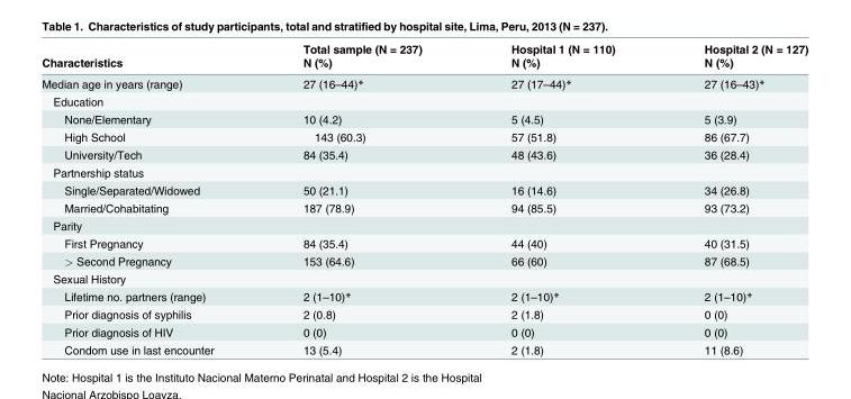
<table><thead><tr><td rowspan="2">Characteristics</td><td rowspan="2">Total sample (N = 237) N (%)</td><td rowspan="2">Hospital 1 (N = 110) N (%)</td><td rowspan="2">Hospital 2 (N = 127) N (%)</td></tr><tr></tr></thead><tbody><tr><td>Median age in years (range)</td><td>27 (16–44)*</td><td>27 (17–44)*</td><td>27 (16–43)*</td></tr><tr><td colspan="4">Education</td></tr><tr><td>None/Elementary</td><td>10 (4.2)</td><td>5 (4.5)</td><td>5 (3.9)</td></tr><tr><td>High School</td><td>143 (60.3)</td><td>57 (51.8)</td><td>86 (67.7)</td></tr><tr><td>University/Tech</td><td>84 (35.4)</td><td>48 (43.6)</td><td>36 (28.4)</td></tr><tr><td colspan="4">Partnership status</td></tr><tr><td>Single/Separated/Widowed</td><td>50 (21.1)</td><td>16 (14.6)</td><td>34 (26.8)</td></tr><tr><td>Married/Cohabitating</td><td>187 (78.9)</td><td>94 (85.5)</td><td>93 (73.2)</td></tr><tr><td colspan="4">Parity</td></tr><tr><td>First Pregnancy</td><td>84 (35.4)</td><td>44 (40)</td><td>40 (31.5)</td></tr><tr><td>&gt; Second Pregnancy</td><td>153 (64.6)</td><td>66 (60)</td><td>87 (68.5)</td></tr><tr><td colspan="4">Sexual History</td></tr><tr><td>Lifetime no. partners (range)</td><td>2 (1–10)*</td><td>2 (1–10)*</td><td>2 (1–10)*</td></tr><tr><td>Prior diagnosis of syphilis</td><td>2 (0.8)</td><td>2 (1.8)</td><td>0 (0)</td></tr><tr><td>Prior diagnosis of HIV</td><td>0 (0)</td><td>0 (0)</td><td>0 (0)</td></tr><tr><td>Condom use in last encounter</td><td>13 (5.4)</td><td>2 (1.8)</td><td>11 (8.6)</td></tr></tbody></table>